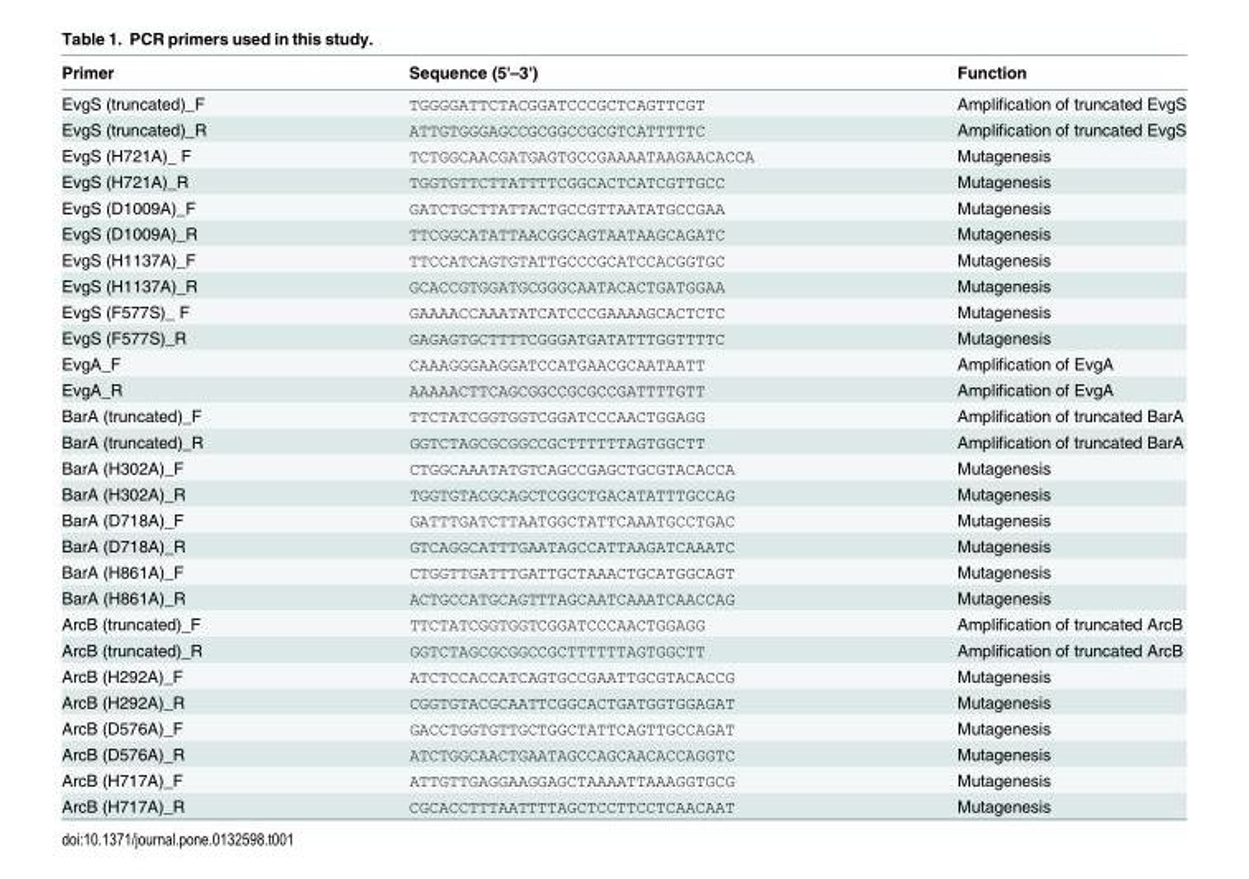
<table><thead><tr><td>Primer</td><td>Sequence (5&#x27;–3&#x27;)</td><td>Function</td></tr></thead><tbody><tr><td>EvgS (truncated)_F</td><td>TGGGGATTCTACGGATCCCGCTCAGTTCGT</td><td>Amplification of truncated EvgS</td></tr><tr><td>EvgS (truncated)_R</td><td>ATTGTGGGAGCCGCGGCCGCGTCATTTTTC</td><td>Amplification of truncated EvgS</td></tr><tr><td>EvgS (H721A)_ F</td><td>TCTGGCAACGATGAGTGCCGAAAATAAGAACACCA</td><td>Mutagenesis</td></tr><tr><td>EvgS (H721A)_R</td><td>TGGTGTTCTTATTTTCGGCACTCATCGTTGCC</td><td>Mutagenesis</td></tr><tr><td>EvgS (D1009A)_F</td><td>GATCTGCTTATTACTGCCGTTAATATGCCGAA</td><td>Mutagenesis</td></tr><tr><td>EvgS (D1009A)_R</td><td>TTCGGCATATTAACGGCAGTAATAAGCAGATC</td><td>Mutagenesis</td></tr><tr><td>EvgS (H1137A)_F</td><td>TTCCATCAGTGTATTGCCCGCATCCACGGTGC</td><td>Mutagenesis</td></tr><tr><td>EvgS (H1137A)_R</td><td>GCACCGTGGATGCGGGCAATACACTGATGGAA</td><td>Mutagenesis</td></tr><tr><td>EvgS (F577S)_ F</td><td>GAAAACCAAATATCATCCCGAAAAGCACTCTC</td><td>Mutagenesis</td></tr><tr><td>EvgS (F577S)_R</td><td>GAGAGTGCTTTTCGGGATGATATTTGGTTTTC</td><td>Mutagenesis</td></tr><tr><td>EvgA_F</td><td>CAAAGGGAAGGATCCATGAACGCAATAATT</td><td>Amplification of EvgA</td></tr><tr><td>EvgA_R</td><td>AAAAACTTCAGCGGCCGCGCCGATTTTGTT</td><td>Amplification of EvgA</td></tr><tr><td>BarA (truncated)_F</td><td>TTCTATCGGTGGTCGGATCCCAACTGGAGG</td><td>Amplification of truncated BarA</td></tr><tr><td>BarA (truncated)_R</td><td>GGTCTAGCGCGGCCGCTTTTTTAGTGGCTT</td><td>Amplification of truncated BarA</td></tr><tr><td>BarA (H302A)_F</td><td>CTGGCAAATATGTCAGCCGAGCTGCGTACACCA</td><td>Mutagenesis</td></tr><tr><td>BarA (H302A)_R</td><td>TGGTGTACGCAGCTCGGCTGACATATTTGCCAG</td><td>Mutagenesis</td></tr><tr><td>BarA (D718A)_F</td><td>GATTTGATCTTAATGGCTATTCAAATGCCTGAC</td><td>Mutagenesis</td></tr><tr><td>BarA (D718A)_R</td><td>GTCAGGCATTTGAATAGCCATTAAGATCAAATC</td><td>Mutagenesis</td></tr><tr><td>BarA (H861A)_F</td><td>CTGGTTGATTTGATTGCTAAACTGCATGGCAGT</td><td>Mutagenesis</td></tr><tr><td>BarA (H861A)_R</td><td>ACTGCCATGCAGTTTAGCAATCAAATCAACCAG</td><td>Mutagenesis</td></tr><tr><td>ArcB (truncated)_F</td><td>TTCTATCGGTGGTCGGATCCCAACTGGAGG</td><td>Amplification of truncated ArcB</td></tr><tr><td>ArcB (truncated)_R</td><td>GGTCTAGCGCGGCCGCTTTTTTAGTGGCTT</td><td>Amplification of truncated ArcB</td></tr><tr><td>ArcB (H292A)_F</td><td>ATCTCCACCATCAGTGCCGAATTGCGTACACCG</td><td>Mutagenesis</td></tr><tr><td>ArcB (H292A)_R</td><td>CGGTGTACGCAATTCGGCACTGATGGTGGAGAT</td><td>Mutagenesis</td></tr><tr><td>ArcB (D576A)_F</td><td>GACCTGGTGTTGCTGGCTATTCAGTTGCCAGAT</td><td>Mutagenesis</td></tr><tr><td>ArcB (D576A)_R</td><td>ATCTGGCAACTGAATAGCCAGCAACACCAGGTC</td><td>Mutagenesis</td></tr><tr><td>ArcB (H717A)_F</td><td>ATTGTTGAGGAAGGAGCTAAAATTAAAGGTGCG</td><td>Mutagenesis</td></tr><tr><td>ArcB (H717A)_R</td><td>CGCACCTTTAATTTTAGCTCCTTCCTCAACAAT</td><td>Mutagenesis</td></tr></tbody></table>